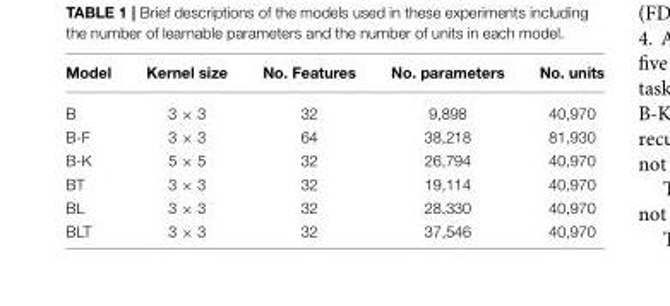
<table><thead><tr><td>Model</td><td>Kernel size</td><td>No. Features</td><td>No. parameters</td><td>No. units</td></tr></thead><tbody><tr><td>B</td><td>3 × 3</td><td>32</td><td>9,898</td><td>40,970</td></tr><tr><td>B-F</td><td>3 × 3</td><td>64</td><td>38,218</td><td>81,930</td></tr><tr><td>B-K</td><td>5 × 5</td><td>32</td><td>26,794</td><td>40,970</td></tr><tr><td>BT</td><td>3 × 3</td><td>32</td><td>19,114</td><td>40,970</td></tr><tr><td>BL</td><td>3 × 3</td><td>32</td><td>28,330</td><td>40,970</td></tr><tr><td>BLT</td><td>3 × 3</td><td>32</td><td>37,546</td><td>40,970</td></tr></tbody></table>